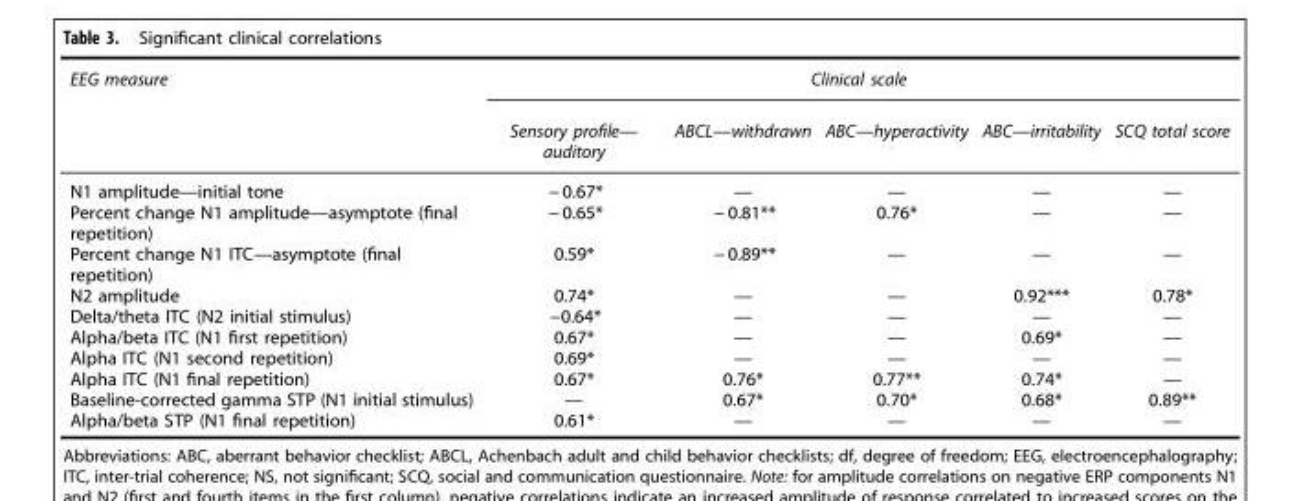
<table><thead><tr><td rowspan="2">EEG measure</td><td colspan="5">Clinical scale</td></tr><tr><td>Sensory profile— auditory</td><td>ABCL—withdrawn</td><td>ABC—hyperactivity</td><td>ABC—irritability</td><td>SCQ total score</td></tr></thead><tbody><tr><td>N1 amplitude—initial tone</td><td>− 0.67*</td><td>—</td><td>—</td><td>—</td><td>—</td></tr><tr><td>Percent change N1 amplitude—asymptote (final repetition)</td><td>− 0.65*</td><td>− 0.81**</td><td>0.76*</td><td>—</td><td>—</td></tr><tr><td>Percent change N1 ITC—asymptote (final repetition)</td><td>0.59*</td><td>− 0.89**</td><td>—</td><td>—</td><td>—</td></tr><tr><td>N2 amplitude</td><td>0.74*</td><td>—</td><td>—</td><td>0.92***</td><td>0.78*</td></tr><tr><td>Delta/theta ITC (N2 initial stimulus)</td><td>−0.64*</td><td>—</td><td>—</td><td>—</td><td>—</td></tr><tr><td>Alpha/beta ITC (N1 first repetition)</td><td>0.67*</td><td>—</td><td>—</td><td>0.69*</td><td>—</td></tr><tr><td>Alpha ITC (N1 second repetition)</td><td>0.69*</td><td>—</td><td>—</td><td>—</td><td>—</td></tr><tr><td>Alpha ITC (N1 final repetition)</td><td>0.67*</td><td>0.76*</td><td>0.77**</td><td>0.74*</td><td>—</td></tr><tr><td>Baseline-corrected gamma STP (N1 initial stimulus)</td><td>—</td><td>0.67*</td><td>0.70*</td><td>0.68*</td><td>0.89**</td></tr><tr><td>Alpha/beta STP (N1 final repetition)</td><td>0.61*</td><td>—</td><td>—</td><td>—</td><td>—</td></tr></tbody></table>